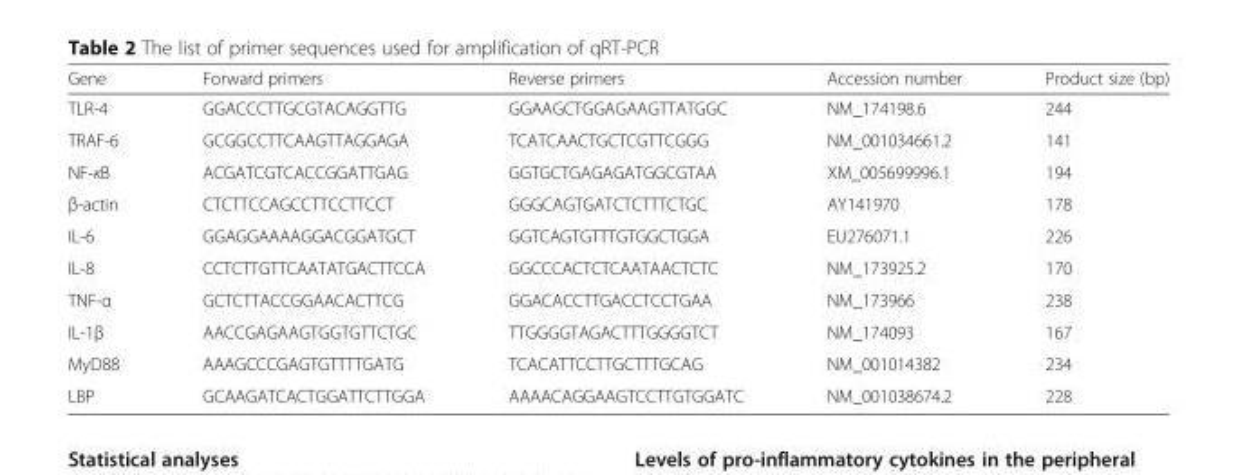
<table><thead><tr><td>Gene</td><td>Forward primers</td><td>Reverse primers</td><td>Accession number</td><td>Product size (bp)</td></tr></thead><tbody><tr><td>TLR-4</td><td>GGACCCTTGCGTACAGGTTG</td><td>GGAAGCTGGAGAAGTTATGGC</td><td>NM_174198.6</td><td>244</td></tr><tr><td>TRAF-6</td><td>GCGGCCTTCAAGTTAGGAGA</td><td>TCATCAACTGCTCGTTCGGG</td><td>NM_001034661.2</td><td>141</td></tr><tr><td>NF-κB</td><td>ACGATCGTCACCGGATTGAG</td><td>GGTGCTGAGAGATGGCGTAA</td><td>XM_005699996.1</td><td>194</td></tr><tr><td>β-actin</td><td>CTCTTCCAGCCTTCCTTCCT</td><td>GGGCAGTGATCTCTTTCTGC</td><td>AY141970</td><td>178</td></tr><tr><td>IL-6</td><td>GGAGGAAAAGGACGGATGCT</td><td>GGTCAGTGTTTGTGGCTGGA</td><td>EU276071.1</td><td>226</td></tr><tr><td>IL-8</td><td>CCTCTTGTTCAATATGACTTCCA</td><td>GGCCCACTCTCAATAACTCTC</td><td>NM_173925.2</td><td>170</td></tr><tr><td>TNF-α</td><td>GCTCTTACCGGAACACTTCG</td><td>GGACACCTTGACCTCCTGAA</td><td>NM_173966</td><td>238</td></tr><tr><td>IL-1β</td><td>AACCGAGAAGTGGTGTTCTGC</td><td>TTGGGGTAGACTTTGGGGTCT</td><td>NM_174093</td><td>167</td></tr><tr><td>MyD88</td><td>AAAGCCCGAGTGTTTTGATG</td><td>TCACATTCCTTGCTTTGCAG</td><td>NM_001014382</td><td>234</td></tr><tr><td>LBP</td><td>GCAAGATCACTGGATTCTTGGA</td><td>AAAACAGGAAGTCCTTGTGGATC</td><td>NM_001038674.2</td><td>228</td></tr></tbody></table>